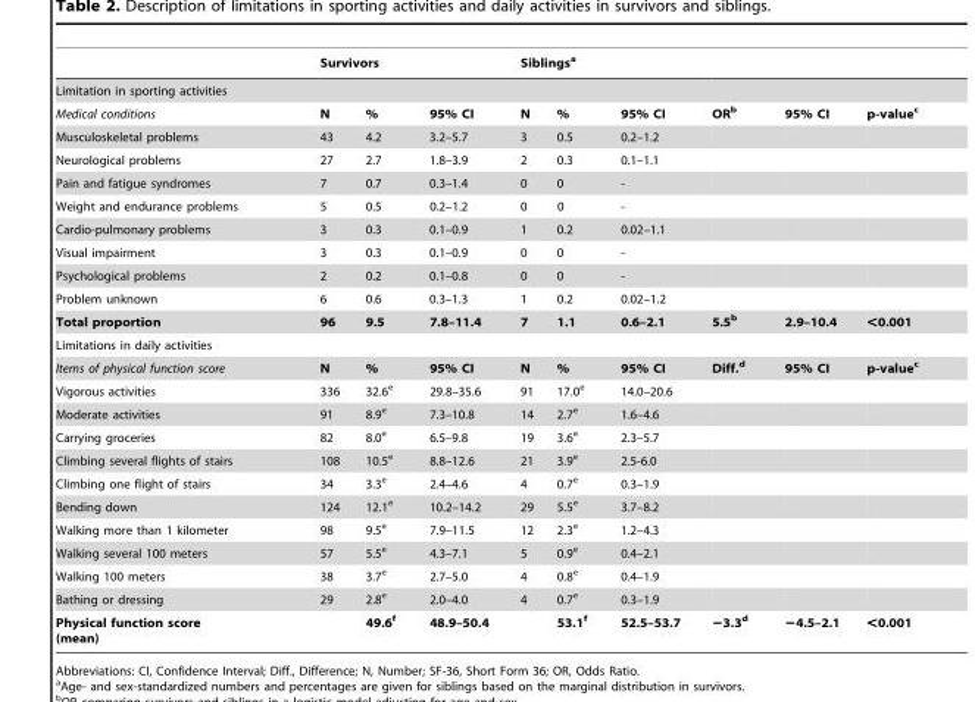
<table><thead><tr><td></td><td colspan="3">Survivors</td><td colspan="3">Siblings<sup>a</sup></td><td></td><td></td><td></td></tr><tr><td colspan="10">Limitation in sporting activities</td></tr><tr><td>Medical conditions</td><td>N</td><td>%</td><td>95% CI</td><td>N</td><td>%</td><td>95% CI</td><td>ORb</td><td>95% CI</td><td>p-valuec</td></tr></thead><tbody><tr><td>Musculoskeletal problems</td><td>43</td><td>4.2</td><td>3.2–5.7</td><td>3</td><td>0.5</td><td>0.2–1.2</td><td></td><td></td><td></td></tr><tr><td>Neurological problems</td><td>27</td><td>2.7</td><td>1.8–3.9</td><td>2</td><td>0.3</td><td>0.1–1.1</td><td></td><td></td><td></td></tr><tr><td>Pain and fatigue syndromes</td><td>7</td><td>0.7</td><td>0.3–1.4</td><td>0</td><td>0</td><td>-</td><td></td><td></td><td></td></tr><tr><td>Weight and endurance problems</td><td>5</td><td>0.5</td><td>0.2–1.2</td><td>0</td><td>0</td><td>-</td><td></td><td></td><td></td></tr><tr><td>Cardio-pulmonary problems</td><td>3</td><td>0.3</td><td>0.1–0.9</td><td>1</td><td>0.2</td><td>0.02–1.1</td><td></td><td></td><td></td></tr><tr><td>Visual impairment</td><td>3</td><td>0.3</td><td>0.1–0.9</td><td>0</td><td>0</td><td>-</td><td></td><td></td><td></td></tr><tr><td>Psychological problems</td><td>2</td><td>0.2</td><td>0.1–0.8</td><td>0</td><td>0</td><td>-</td><td></td><td></td><td></td></tr><tr><td>Problem unknown</td><td>6</td><td>0.6</td><td>0.3–1.3</td><td>1</td><td>0.2</td><td>0.02–1.2</td><td></td><td></td><td></td></tr><tr><td>Total proportion</td><td>96</td><td>9.5</td><td>7.8–11.4</td><td>7</td><td>1.1</td><td>0.6–2.1</td><td>5.5b</td><td>2.9–10.4</td><td>&lt;0.001</td></tr><tr><td colspan="10">Limitations in daily activities</td></tr><tr><td>Items of physical function score</td><td>N</td><td>%</td><td>95% CI</td><td>N</td><td>%</td><td>95% CI</td><td>Diff.d</td><td>95% CI</td><td>p-valuec</td></tr><tr><td>Vigorous activities</td><td>336</td><td>32.6<sup>e</sup></td><td>29.8–35.6</td><td>91</td><td>17.0<sup>e</sup></td><td>14.0–20.6</td><td></td><td></td><td></td></tr><tr><td>Moderate activities</td><td>91</td><td>8.9<sup>e</sup></td><td>7.3–10.8</td><td>14</td><td>2.7<sup>e</sup></td><td>1.6–4.6</td><td></td><td></td><td></td></tr><tr><td>Carrying groceries</td><td>82</td><td>8.0<sup>e</sup></td><td>6.5–9.8</td><td>19</td><td>3.6<sup>e</sup></td><td>2.3–5.7</td><td></td><td></td><td></td></tr><tr><td>Climbing several flights of stairs</td><td>108</td><td>10.5<sup>e</sup></td><td>8.8–12.6</td><td>21</td><td>3.9<sup>e</sup></td><td>2.5-6.0</td><td></td><td></td><td></td></tr><tr><td>Climbing one flight of stairs</td><td>34</td><td>3.3<sup>e</sup></td><td>2.4–4.6</td><td>4</td><td>0.7<sup>e</sup></td><td>0.3–1.9</td><td></td><td></td><td></td></tr><tr><td>Bending down</td><td>124</td><td>12.1<sup>e</sup></td><td>10.2–14.2</td><td>29</td><td>5.5<sup>e</sup></td><td>3.7–8.2</td><td></td><td></td><td></td></tr><tr><td>Walking more than 1 kilometer</td><td>98</td><td>9.5<sup>e</sup></td><td>7.9–11.5</td><td>12</td><td>2.3<sup>e</sup></td><td>1.2–4.3</td><td></td><td></td><td></td></tr><tr><td>Walking several 100 meters</td><td>57</td><td>5.5<sup>e</sup></td><td>4.3–7.1</td><td>5</td><td>0.9<sup>e</sup></td><td>0.4–2.1</td><td></td><td></td><td></td></tr><tr><td>Walking 100 meters</td><td>38</td><td>3.7<sup>e</sup></td><td>2.7–5.0</td><td>4</td><td>0.8<sup>e</sup></td><td>0.4–1.9</td><td></td><td></td><td></td></tr><tr><td>Bathing or dressing</td><td>29</td><td>2.8<sup>e</sup></td><td>2.0–4.0</td><td>4</td><td>0.7<sup>e</sup></td><td>0.3–1.9</td><td></td><td></td><td></td></tr><tr><td>Physical function score (mean)</td><td></td><td>49.6f</td><td>48.9–50.4</td><td></td><td>53.1f</td><td>52.5–53.7</td><td>−3.3d</td><td>−4.5–2.1</td><td>&lt;0.001</td></tr></tbody></table>